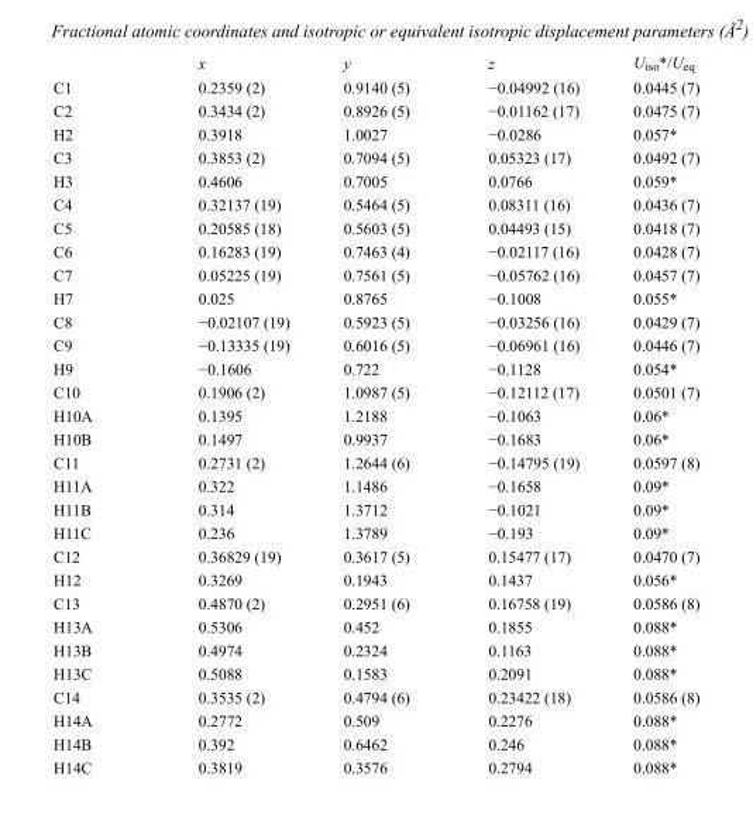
<table><thead><tr><td></td><td>x</td><td>y</td><td>z</td><td>U<sub>iso</sub>*/U<sub>eq</sub></td></tr></thead><tbody><tr><td>C1</td><td>0.2359 (2)</td><td>0.9140 (5)</td><td>−0.04992 (16)</td><td>0.0445 (7)</td></tr><tr><td>C2</td><td>0.3434 (2)</td><td>0.8926 (5)</td><td>−0.01162 (17)</td><td>0.0475 (7)</td></tr><tr><td>H2</td><td>0.3918</td><td>1.0027</td><td>−0.0286</td><td>0.057*</td></tr><tr><td>C3</td><td>0.3853 (2)</td><td>0.7094 (5)</td><td>0.05323 (17)</td><td>0.0492 (7)</td></tr><tr><td>H3</td><td>0.4606</td><td>0.7005</td><td>0.0766</td><td>0.059*</td></tr><tr><td>C4</td><td>0.32137 (19)</td><td>0.5464 (5)</td><td>0.08311 (16)</td><td>0.0436 (7)</td></tr><tr><td>C5</td><td>0.20585 (18)</td><td>0.5603 (5)</td><td>0.04493 (15)</td><td>0.0418 (7)</td></tr><tr><td>C6</td><td>0.16283 (19)</td><td>0.7463 (4)</td><td>−0.02117 (16)</td><td>0.0428 (7)</td></tr><tr><td>C7</td><td>0.05225 (19)</td><td>0.7561 (5)</td><td>−0.05762 (16)</td><td>0.0457 (7)</td></tr><tr><td>H7</td><td>0.025</td><td>0.8765</td><td>−0.1008</td><td>0.055*</td></tr><tr><td>C8</td><td>−0.02107 (19)</td><td>0.5923 (5)</td><td>−0.03256 (16)</td><td>0.0429 (7)</td></tr><tr><td>C9</td><td>−0.13335 (19)</td><td>0.6016 (5)</td><td>−0.06961 (16)</td><td>0.0446 (7)</td></tr><tr><td>H9</td><td>−0.1606</td><td>0.722</td><td>−0.1128</td><td>0.054*</td></tr><tr><td>C10</td><td>0.1906 (2)</td><td>1.0987 (5)</td><td>−0.12112 (17)</td><td>0.0501 (7)</td></tr><tr><td>H10A</td><td>0.1395</td><td>1.2188</td><td>−0.1063</td><td>0.06*</td></tr><tr><td>H10B</td><td>0.1497</td><td>0.9937</td><td>−0.1683</td><td>0.06*</td></tr><tr><td>C11</td><td>0.2731 (2)</td><td>1.2644 (6)</td><td>−0.14795 (19)</td><td>0.0597 (8)</td></tr><tr><td>H11A</td><td>0.322</td><td>1.1486</td><td>−0.1658</td><td>0.09*</td></tr><tr><td>H11B</td><td>0.314</td><td>1.3712</td><td>−0.1021</td><td>0.09*</td></tr><tr><td>H11C</td><td>0.236</td><td>1.3789</td><td>−0.193</td><td>0.09*</td></tr><tr><td>C12</td><td>0.36829 (19)</td><td>0.3617 (5)</td><td>0.15477 (17)</td><td>0.0470 (7)</td></tr><tr><td>H12</td><td>0.3269</td><td>0.1943</td><td>0.1437</td><td>0.056*</td></tr><tr><td>C13</td><td>0.4870 (2)</td><td>0.2951 (6)</td><td>0.16758 (19)</td><td>0.0586 (8)</td></tr><tr><td>H13A</td><td>0.5306</td><td>0.452</td><td>0.1855</td><td>0.088*</td></tr><tr><td>H13B</td><td>0.4974</td><td>0.2324</td><td>0.1163</td><td>0.088*</td></tr><tr><td>H13C</td><td>0.5088</td><td>0.1583</td><td>0.2091</td><td>0.088*</td></tr><tr><td>C14</td><td>0.3535 (2)</td><td>0.4794 (6)</td><td>0.23422 (18)</td><td>0.0586 (8)</td></tr><tr><td>H14A</td><td>0.2772</td><td>0.509</td><td>0.2276</td><td>0.088*</td></tr><tr><td>H14B</td><td>0.392</td><td>0.6462</td><td>0.246</td><td>0.088*</td></tr><tr><td>H14C</td><td>0.3819</td><td>0.3576</td><td>0.2794</td><td>0.088*</td></tr></tbody></table>